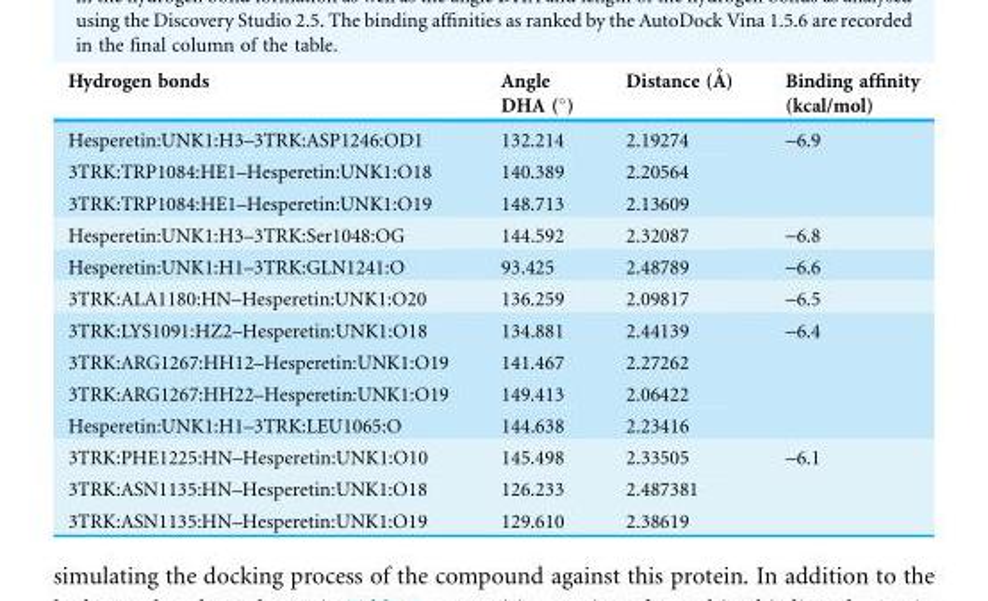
<table><thead><tr><td>Hydrogen bonds</td><td>Angle DHA (°)</td><td>Distance (A˚ )</td><td>Binding affinity (kcal/mol)</td></tr></thead><tbody><tr><td>Hesperetin:UNK1:H3–3TRK:ASP1246:OD1</td><td>132.214</td><td>2.19274</td><td rowspan="3">-6.9</td></tr><tr><td>3TRK:TRP1084:HE1–Hesperetin:UNK1:O18</td><td>140.389</td><td>2.20564</td></tr><tr><td>3TRK:TRP1084:HE1–Hesperetin:UNK1:O19</td><td>148.713</td><td>2.13609</td></tr><tr><td>Hesperetin:UNK1:H3–3TRK:Ser1048:OG</td><td>144.592</td><td>2.32087</td><td>-6.8</td></tr><tr><td>Hesperetin:UNK1:H1–3TRK:GLN1241:O</td><td>93.425</td><td>2.48789</td><td>-6.6</td></tr><tr><td>3TRK:ALA1180:HN–Hesperetin:UNK1:O20</td><td>136.259</td><td>2.09817</td><td>-6.5</td></tr><tr><td>3TRK:LYS1091:HZ2–Hesperetin:UNK1:O18</td><td>134.881</td><td>2.44139</td><td rowspan="4">-6.4</td></tr><tr><td>3TRK:ARG1267:HH12–Hesperetin:UNK1:O19</td><td>141.467</td><td>2.27262</td></tr><tr><td>3TRK:ARG1267:HH22–Hesperetin:UNK1:O19</td><td>149.413</td><td>2.06422</td></tr><tr><td>Hesperetin:UNK1:H1–3TRK:LEU1065:O</td><td>144.638</td><td>2.23416</td></tr><tr><td>3TRK:PHE1225:HN–Hesperetin:UNK1:O10</td><td>145.498</td><td>2.33505</td><td rowspan="3">-6.1</td></tr><tr><td>3TRK:ASN1135:HN–Hesperetin:UNK1:O18</td><td>126.233</td><td>2.487381</td></tr><tr><td>3TRK:ASN1135:HN–Hesperetin:UNK1:O19</td><td>129.610</td><td>2.38619</td></tr></tbody></table>